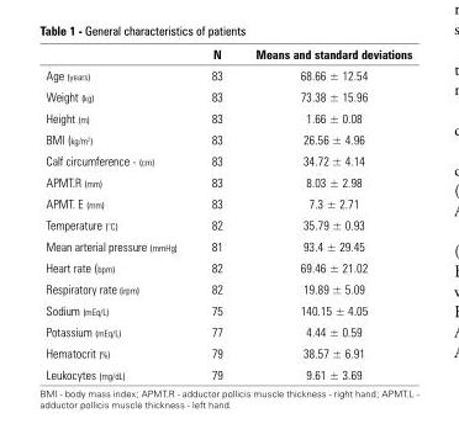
<table><thead><tr><td></td><td>N</td><td>Means and standard deviations</td></tr></thead><tbody><tr><td>Age (years)</td><td>83</td><td>68.66 ± 12.54</td></tr><tr><td>Weight (kg)</td><td>83</td><td>73.38 ± 15.96</td></tr><tr><td>Height (m)</td><td>83</td><td>1.66 ± 0.08</td></tr><tr><td>BMI (kg/m<sup>2</sup>)</td><td>83</td><td>26.56 ± 4.96</td></tr><tr><td>Calf circumference - (cm)</td><td>83</td><td>34.72 ± 4.14</td></tr><tr><td>APMT.R (mm)</td><td>83</td><td>8.03 ± 2.98</td></tr><tr><td>APMT. E (mm)</td><td>83</td><td>7.3 ± 2.71</td></tr><tr><td>Temperature (°C)</td><td>82</td><td>35.79 ± 0.93</td></tr><tr><td>Mean arterial pressure (mmHg)</td><td>81</td><td>93.4 ± 29.45</td></tr><tr><td>Heart rate (bpm)</td><td>82</td><td>69.46 ± 21.02</td></tr><tr><td>Respiratory rate (irpm)</td><td>82</td><td>19.89 ± 5.09</td></tr><tr><td>Sodium (mEq/L)</td><td>75</td><td>140.15 ± 4.05</td></tr><tr><td>Potassium (mEq/L)</td><td>77</td><td>4.44 ± 0.59</td></tr><tr><td>Hematocrit (%)</td><td>79</td><td>38.57 ± 6.91</td></tr><tr><td>Leukocytes (mg/dL)</td><td>79</td><td>9.61 ± 3.69</td></tr></tbody></table>